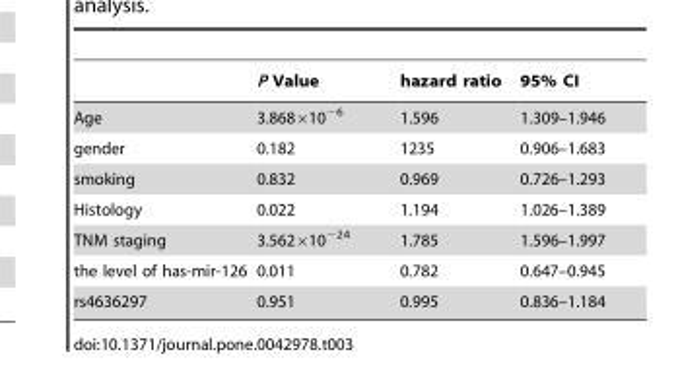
<table><thead><tr><td></td><td>P Value</td><td>hazard ratio</td><td>95% CI</td></tr></thead><tbody><tr><td>Age</td><td>3.868×10<sup>−6</sup></td><td>1.596</td><td>1.309–1.946</td></tr><tr><td>gender</td><td>0.182</td><td>1235</td><td>0.906–1.683</td></tr><tr><td>smoking</td><td>0.832</td><td>0.969</td><td>0.726–1.293</td></tr><tr><td>Histology</td><td>0.022</td><td>1.194</td><td>1.026–1.389</td></tr><tr><td>TNM staging</td><td>3.562×10<sup>−24</sup></td><td>1.785</td><td>1.596–1.997</td></tr><tr><td>the level of has-mir-126</td><td>0.011</td><td>0.782</td><td>0.647–0.945</td></tr><tr><td>rs4636297</td><td>0.951</td><td>0.995</td><td>0.836–1.184</td></tr></tbody></table>